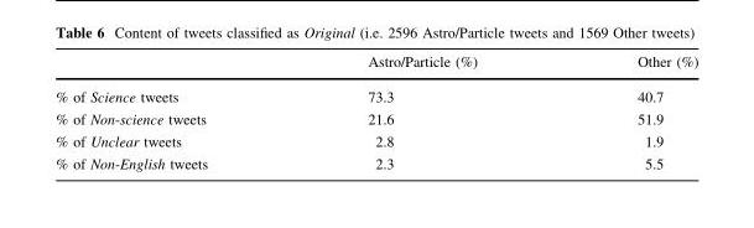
<table><thead><tr><td></td><td>Astro/Particle (%)</td><td>Other (%)</td></tr></thead><tbody><tr><td>% of Science tweets</td><td>73.3</td><td>40.7</td></tr><tr><td>% of Non-science tweets</td><td>21.6</td><td>51.9</td></tr><tr><td>% of Unclear tweets</td><td>2.8</td><td>1.9</td></tr><tr><td>% of Non-English tweets</td><td>2.3</td><td>5.5</td></tr></tbody></table>